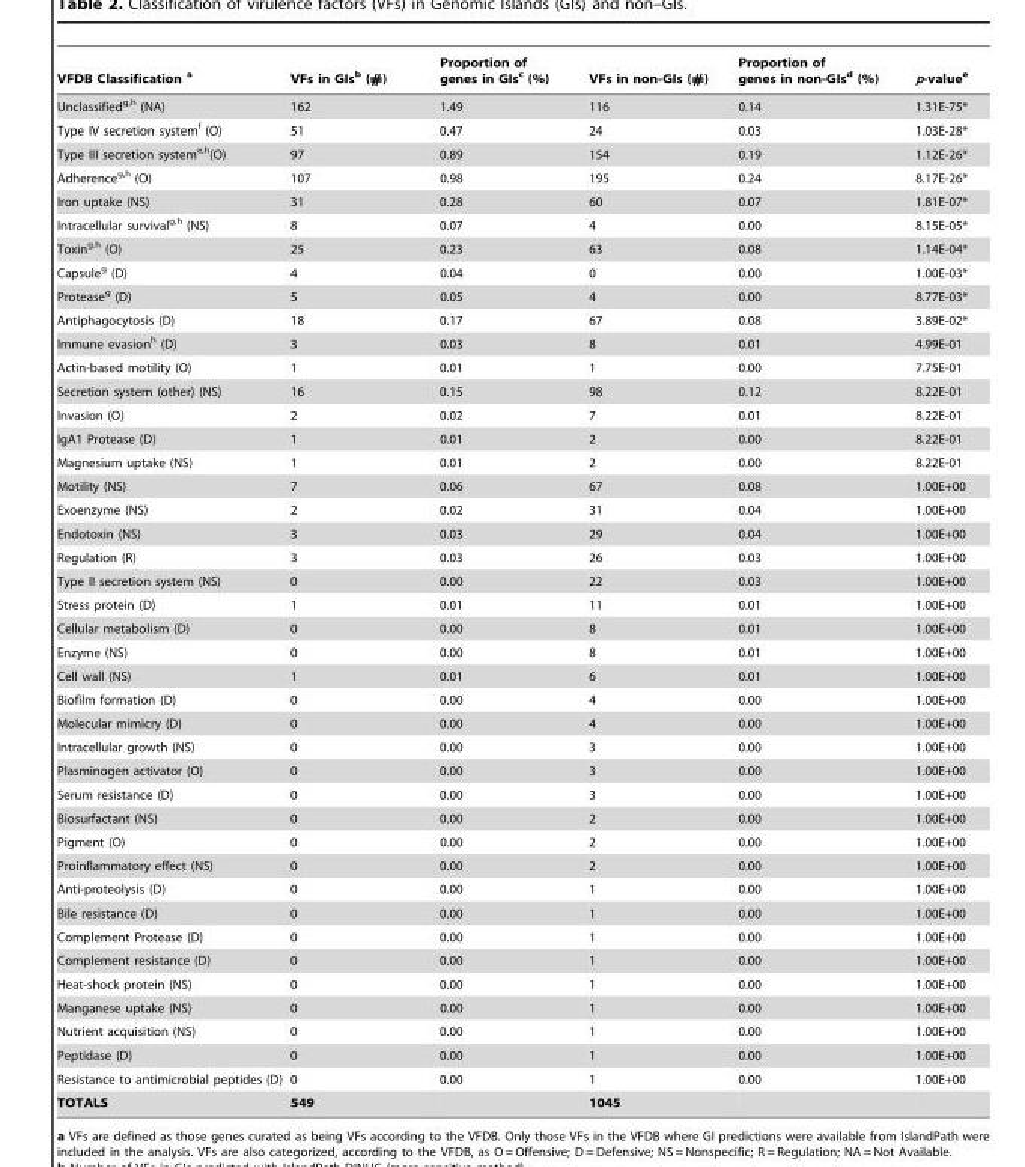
<table><thead><tr><td>VFDB Classification a</td><td>VFs in GIs<sup>b</sup> (#)</td><td>Proportion of genes in GIs<sup>c</sup> (%)</td><td>VFs in non-GIs (#)</td><td>Proportion of genes in non-GIs<sup>d</sup> (%)</td><td>p-value<sup>e</sup></td></tr></thead><tbody><tr><td>Unclassifiedg,h (NA)</td><td>162</td><td>1.49</td><td>116</td><td>0.14</td><td>1.31E-75*</td></tr><tr><td>Type IV secretion system<sup>f</sup> (O)</td><td>51</td><td>0.47</td><td>24</td><td>0.03</td><td>1.03E-28*</td></tr><tr><td>Type III secretion systeme,h(O)</td><td>97</td><td>0.89</td><td>154</td><td>0.19</td><td>1.12E-26*</td></tr><tr><td>Adherenceg,h (O)</td><td>107</td><td>0.98</td><td>195</td><td>0.24</td><td>8.17E-26*</td></tr><tr><td>Iron uptake (NS)</td><td>31</td><td>0.28</td><td>60</td><td>0.07</td><td>1.81E-07*</td></tr><tr><td>Intracellular survivalg,h (NS)</td><td>8</td><td>0.07</td><td>4</td><td>0.00</td><td>8.15E-05*</td></tr><tr><td>Toxin<sup>g.h</sup> (O)</td><td>25</td><td>0.23</td><td>63</td><td>0.08</td><td>1.14E-04*</td></tr><tr><td>Capsule<sup>g</sup> (D)</td><td>4</td><td>0.04</td><td>0</td><td>0.00</td><td>1.00E-03*</td></tr><tr><td>Protease<sup>g</sup> (D)</td><td>5</td><td>0.05</td><td>4</td><td>0.00</td><td>8.77E-03*</td></tr><tr><td>Antiphagocytosis (D)</td><td>18</td><td>0.17</td><td>67</td><td>0.08</td><td>3.89E-02*</td></tr><tr><td>Immune evasion<sup>h</sup> (D)</td><td>3</td><td>0.03</td><td>8</td><td>0.01</td><td>4.99E-01</td></tr><tr><td>Actin-based motility (O)</td><td>1</td><td>0.01</td><td>1</td><td>0.00</td><td>7.75E-01</td></tr><tr><td>Secretion system (other) (NS)</td><td>16</td><td>0.15</td><td>98</td><td>0.12</td><td>8.22E-01</td></tr><tr><td>Invasion (O)</td><td>2</td><td>0.02</td><td>7</td><td>0.01</td><td>8.22E-01</td></tr><tr><td>IgA1 Protease (D)</td><td>1</td><td>0.01</td><td>2</td><td>0.00</td><td>8.22E-01</td></tr><tr><td>Magnesium uptake (NS)</td><td>1</td><td>0.01</td><td>2</td><td>0.00</td><td>8.22E-01</td></tr><tr><td>Motility (NS)</td><td>7</td><td>0.06</td><td>67</td><td>0.08</td><td>1.00E+00</td></tr><tr><td>Exoenzyme (NS)</td><td>2</td><td>0.02</td><td>31</td><td>0.04</td><td>1.00E+00</td></tr><tr><td>Endotoxin (NS)</td><td>3</td><td>0.03</td><td>29</td><td>0.04</td><td>1.00E+00</td></tr><tr><td>Regulation (R)</td><td>3</td><td>0.03</td><td>26</td><td>0.03</td><td>1.00E+00</td></tr><tr><td>Type II secretion system (NS)</td><td>0</td><td>0.00</td><td>22</td><td>0.03</td><td>1.00E+00</td></tr><tr><td>Stress protein (D)</td><td>1</td><td>0.01</td><td>11</td><td>0.01</td><td>1.00E+00</td></tr><tr><td>Cellular metabolism (D)</td><td>0</td><td>0.00</td><td>8</td><td>0.01</td><td>1.00E+00</td></tr><tr><td>Enzyme (NS)</td><td>0</td><td>0.00</td><td>8</td><td>0.01</td><td>1.00E+00</td></tr><tr><td>Cell wall (NS)</td><td>1</td><td>0.01</td><td>6</td><td>0.01</td><td>1.00E+00</td></tr><tr><td>Biofilm formation (D)</td><td>0</td><td>0.00</td><td>4</td><td>0.00</td><td>1.00E+00</td></tr><tr><td>Molecular mimicry (D)</td><td>0</td><td>0.00</td><td>4</td><td>0.00</td><td>1.00E+00</td></tr><tr><td>Intracellular growth (NS)</td><td>0</td><td>0.00</td><td>3</td><td>0.00</td><td>1.00E+00</td></tr><tr><td>Plasminogen activator (O)</td><td>0</td><td>0.00</td><td>3</td><td>0.00</td><td>1.00E+00</td></tr><tr><td>Serum resistance (D)</td><td>0</td><td>0.00</td><td>3</td><td>0.00</td><td>1.00E+00</td></tr><tr><td>Biosurfactant (NS)</td><td>0</td><td>0.00</td><td>2</td><td>0.00</td><td>1.00E+00</td></tr><tr><td>Pigment (O)</td><td>0</td><td>0.00</td><td>2</td><td>0.00</td><td>1.00E+00</td></tr><tr><td>Proinflammatory effect (NS)</td><td>0</td><td>0.00</td><td>2</td><td>0.00</td><td>1.00E+00</td></tr><tr><td>Anti-proteolysis (D)</td><td>0</td><td>0.00</td><td>1</td><td>0.00</td><td>1.00E+00</td></tr><tr><td>Bile resistance (D)</td><td>0</td><td>0.00</td><td>1</td><td>0.00</td><td>1.00E+00</td></tr><tr><td>Complement Protease (D)</td><td>0</td><td>0.00</td><td>1</td><td>0.00</td><td>1.00E+00</td></tr><tr><td>Complement resistance (D)</td><td>0</td><td>0.00</td><td>1</td><td>0.00</td><td>1.00E+00</td></tr><tr><td>Heat-shock protein (NS)</td><td>0</td><td>0.00</td><td>1</td><td>0.00</td><td>1.00E+00</td></tr><tr><td>Manganese uptake (NS)</td><td>0</td><td>0.00</td><td>1</td><td>0.00</td><td>1.00E+00</td></tr><tr><td>Nutrient acquisition (NS)</td><td>0</td><td>0.00</td><td>1</td><td>0.00</td><td>1.00E+00</td></tr><tr><td>Peptidase (D)</td><td>0</td><td>0.00</td><td>1</td><td>0.00</td><td>1.00E+00</td></tr><tr><td>Resistance to antimicrobial peptides (D)</td><td>0</td><td>0.00</td><td>1</td><td>0.00</td><td>1.00E+00</td></tr><tr><td>TOTALS</td><td>549</td><td></td><td>1045</td><td></td><td></td></tr></tbody></table>